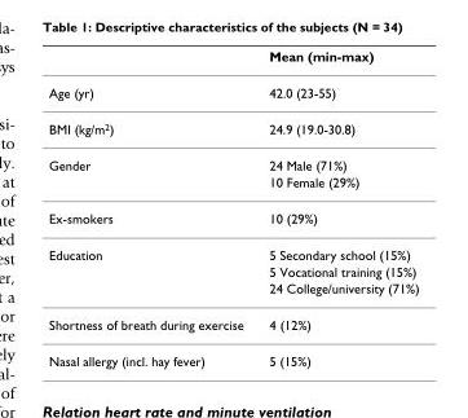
<table><thead><tr><td></td><td>Mean (min-max)</td></tr></thead><tbody><tr><td>Age (yr)</td><td>42.0 (23-55)</td></tr><tr><td>BMI (kg/m<sup>2</sup>)</td><td>24.9 (19.0-30.8)</td></tr><tr><td rowspan="2">Gender</td><td>24 Male (71%)</td></tr><tr><td>10 Female (29%)</td></tr><tr><td>Ex-smokers</td><td>10 (29%)</td></tr><tr><td rowspan="3">Education</td><td>5 Secondary school (15%)</td></tr><tr><td>5 Vocational training (15%)</td></tr><tr><td>24 College/university (71%)</td></tr><tr><td>Shortness of breath during exercise</td><td>4 (12%)</td></tr><tr><td>Nasal allergy (incl. hay fever)</td><td>5 (15%)</td></tr></tbody></table>